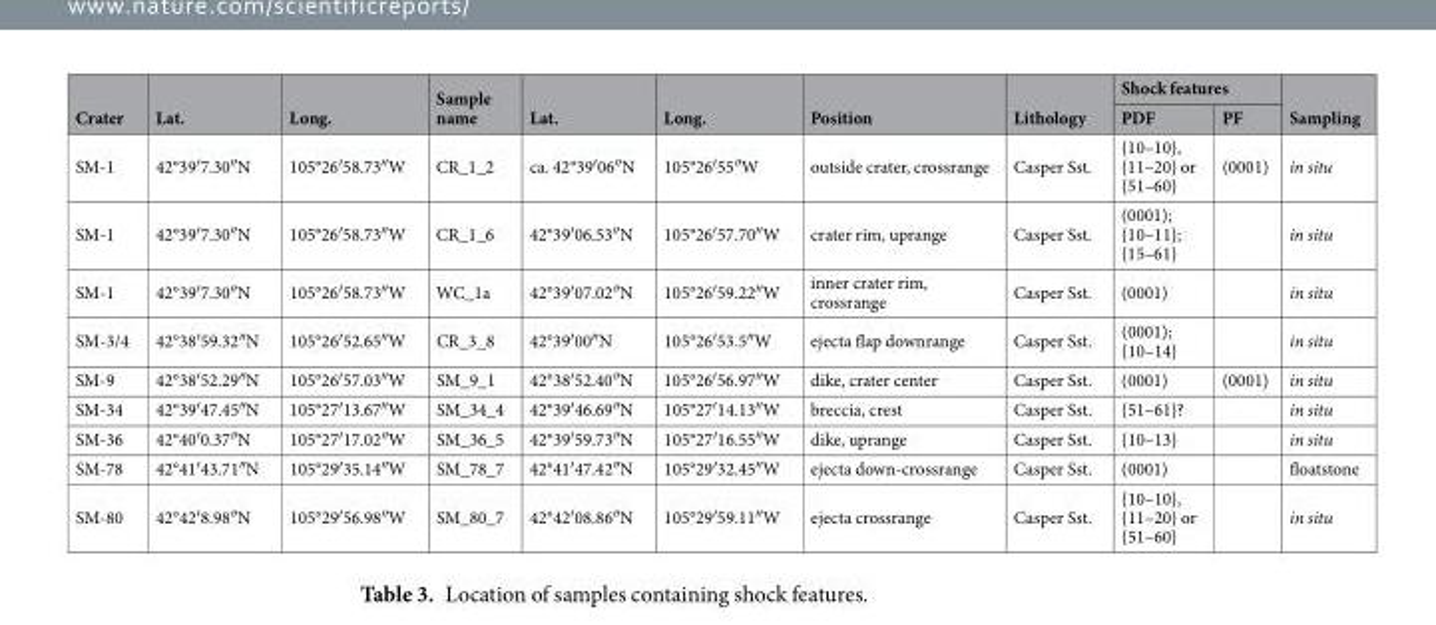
<table><thead><tr><td rowspan="2">Crater</td><td rowspan="2">Lat.</td><td rowspan="2">Long.</td><td rowspan="2">Sample name</td><td rowspan="2">Lat.</td><td rowspan="2">Long.</td><td rowspan="2">Position</td><td rowspan="2">Lithology</td><td colspan="2">Shock features</td><td rowspan="2">Sampling</td></tr><tr><td>PDF</td><td>PF</td></tr></thead><tbody><tr><td>SM-1</td><td>42°39′7.30″N</td><td>105°26′58.73″W</td><td>CR_1_2</td><td>ca. 42°39′06″N</td><td>105°26′55″W</td><td>outside crater, crossrange</td><td>Casper Sst.</td><td>{10–10}, {11–20} or {51–60}</td><td>(0001)</td><td>in situ</td></tr><tr><td>SM-1</td><td>42°39′7.30″N</td><td>105°26′58.73″W</td><td>CR_1_6</td><td>42°39′06.53″N</td><td>105°26′57.70″W</td><td>crater rim, uprange</td><td>Casper Sst.</td><td>(0001); {10–11}; {15–61}</td><td></td><td>in situ</td></tr><tr><td>SM-1</td><td>42°39′7.30″N</td><td>105°26′58.73″W</td><td>WC_1a</td><td>42°39′07.02″N</td><td>105°26′59.22″W</td><td>inner crater rim, crossrange</td><td>Casper Sst.</td><td>(0001)</td><td></td><td>in situ</td></tr><tr><td>SM-3/4</td><td>42°38′59.32″N</td><td>105°26′52.65″W</td><td>CR_3_8</td><td>42°39′00″N</td><td>105°26′53.5″W</td><td>ejecta flap downrange</td><td>Casper Sst.</td><td>(0001); {10–14}</td><td></td><td>in situ</td></tr><tr><td>SM-9</td><td>42°38′52.29″N</td><td>105°26′57.03″W</td><td>SM_9_1</td><td>42°38′52.40″N</td><td>105°26′56.97″W</td><td>dike, crater center</td><td>Casper Sst.</td><td>(0001)</td><td>(0001)</td><td>in situ</td></tr><tr><td>SM-34</td><td>42°39′47.45″N</td><td>105°27′13.67″W</td><td>SM_34_4</td><td>42°39′46.69″N</td><td>105°27′14.13″W</td><td>breccia, crest</td><td>Casper Sst.</td><td>{51–61}?</td><td></td><td>in situ</td></tr><tr><td>SM-36</td><td>42°40′0.37″N</td><td>105°27′17.02″W</td><td>SM_36_5</td><td>42°39′59.73″N</td><td>105°27′16.55″W</td><td>dike, uprange</td><td>Casper Sst.</td><td>{10–13}</td><td></td><td>in situ</td></tr><tr><td>SM-78</td><td>42°41′43.71″N</td><td>105°29′35.14″W</td><td>SM_78_7</td><td>42°41′47.42″N</td><td>105°29′32.45″W</td><td>ejecta down-crossrange</td><td>Casper Sst.</td><td>(0001)</td><td></td><td>floatstone</td></tr><tr><td>SM-80</td><td>42°42′8.98″N</td><td>105°29′56.98″W</td><td>SM_80_7</td><td>42°42′08.86″N</td><td>105°29′59.11″W</td><td>ejecta crossrange</td><td>Casper Sst.</td><td>{10–10}, {11–20} or {51–60}</td><td></td><td>in situ</td></tr></tbody></table>